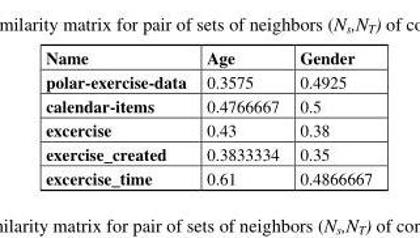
<table><thead><tr><td>Name</td><td>Age</td><td>Gender</td></tr></thead><tbody><tr><td>polar-exercise-data</td><td>0.3575</td><td>0.4925</td></tr><tr><td>calendar-items</td><td>0.4766667</td><td>0.5</td></tr><tr><td>excercise</td><td>0.43</td><td>0.38</td></tr><tr><td>exercise_created</td><td>0.3833334</td><td>0.35</td></tr><tr><td>excercise_time</td><td>0.61</td><td>0.4866667</td></tr></tbody></table>